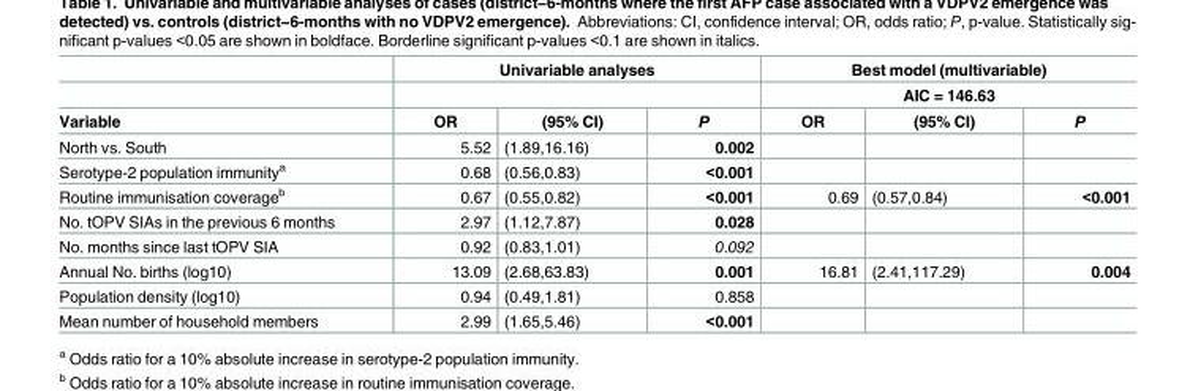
<table><thead><tr><td rowspan="3">Variable</td><td colspan="3">Univariable analyses</td><td rowspan="2" colspan="3">Best model (multivariable) AIC = 146.63</td></tr><tr><td rowspan="2">OR</td><td rowspan="2">(95% CI)</td><td rowspan="2">P</td></tr><tr><td>OR</td><td>(95% CI)</td><td>P</td></tr></thead><tbody><tr><td>North vs. South</td><td>5.52</td><td>(1.89,16.16)</td><td>0.002</td><td></td><td></td><td></td></tr><tr><td>Serotype-2 population immunity<sup>a</sup></td><td>0.68</td><td>(0.56,0.83)</td><td>&lt;0.001</td><td></td><td></td><td></td></tr><tr><td>Routine immunisation coverage<sup>b</sup></td><td>0.67</td><td>(0.55,0.82)</td><td>&lt;0.001</td><td>0.69</td><td>(0.57,0.84)</td><td>&lt;0.001</td></tr><tr><td>No. tOPV SIAs in the previous 6 months</td><td>2.97</td><td>(1.12,7.87)</td><td>0.028</td><td></td><td></td><td></td></tr><tr><td>No. months since last tOPV SIA</td><td>0.92</td><td>(0.83,1.01)</td><td>0.092</td><td></td><td></td><td></td></tr><tr><td>Annual No. births (log10)</td><td>13.09</td><td>(2.68,63.83)</td><td>0.001</td><td>16.81</td><td>(2.41,117.29)</td><td>0.004</td></tr><tr><td>Population density (log10)</td><td>0.94</td><td>(0.49,1.81)</td><td>0.858</td><td></td><td></td><td></td></tr><tr><td>Mean number of household members</td><td>2.99</td><td>(1.65,5.46)</td><td>&lt;0.001</td><td></td><td></td><td></td></tr></tbody></table>